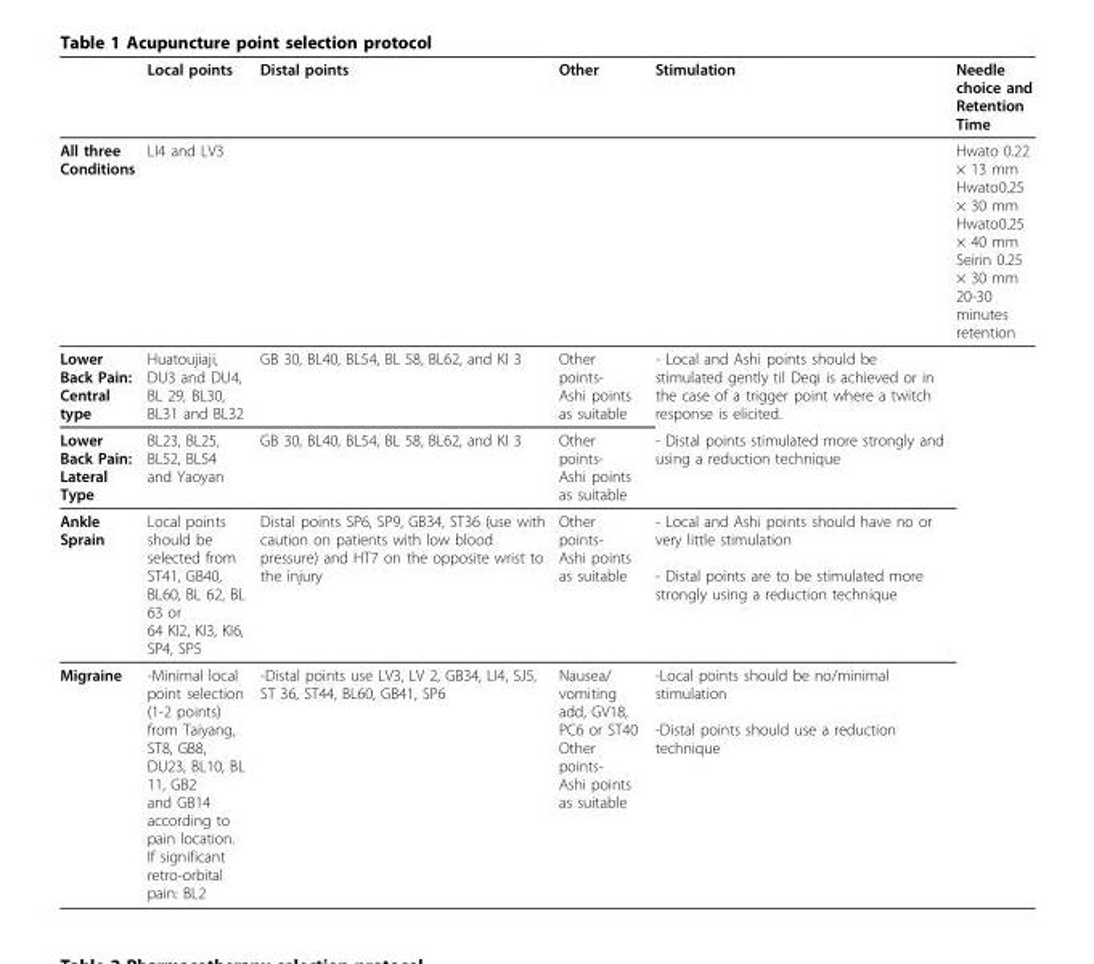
<table><thead><tr><td></td><td>Local points</td><td>Distal points</td><td>Other</td><td>Stimulation</td><td>Needle choice and Retention Time</td></tr></thead><tbody><tr><td>All three Conditions</td><td>LI4 and LV3</td><td></td><td></td><td></td><td>Hwato 0.22 × 13 mm Hwato0.25 × 30 mm Hwato0.25 × 40 mm Seirin 0.25 × 30 mm 20-30 minutes retention</td></tr><tr><td>Lower Back Pain: Central type</td><td>Huatoujiaji, DU3 and DU4, BL 29, BL30, BL31 and BL32</td><td>GB 30, BL40, BL54, BL 58, BL62, and KI 3</td><td>Other points- Ashi points as suitable</td><td>- Local and Ashi points should be stimulated gently til Deqi is achieved or in the case of a trigger point where a twitch response is elicited.</td><td></td></tr><tr><td>Lower Back Pain: Lateral Type</td><td>BL23, BL25, BL52, BL54 and Yaoyan</td><td>GB 30, BL40, BL54, BL 58, BL62, and KI 3</td><td>Other points- Ashi points as suitable</td><td>- Distal points stimulated more strongly and using a reduction technique</td><td></td></tr><tr><td>Ankle Sprain</td><td>Local points should be selected from ST41, GB40, BL60, BL 62, BL 63 or 64 KI2, KI3, KI6, SP4, SP5</td><td>Distal points SP6, SP9, GB34, ST36 (use with caution on patients with low blood pressure) and HT7 on the opposite wrist to the injury</td><td>Other points- Ashi points as suitable</td><td>- Local and Ashi points should have no or very little stimulation - Distal points are to be stimulated more strongly using a reduction technique</td><td></td></tr><tr><td>Migraine</td><td>-Minimal local point selection (1-2 points) from Taiyang, ST8, GB8, DU23, BL10, BL 11, GB2 and GB14 according to pain location. If significant retro-orbital pain: BL2</td><td>-Distal points use LV3, LV 2, GB34, LI4, SJ5, ST 36, ST44, BL60, GB41, SP6</td><td>Nausea/ vomiting add, GV18, PC6 or ST40 Other points- Ashi points as suitable</td><td>-Local points should be no/minimal stimulation -Distal points should use a reduction technique</td><td></td></tr></tbody></table>